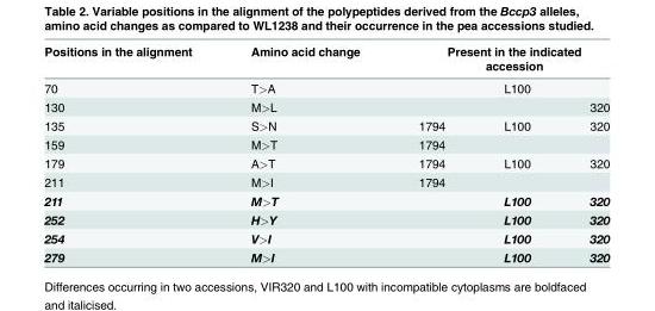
<table><thead><tr><td rowspan="2">Positions in the alignment 70</td><td rowspan="2">Amino acid change T&gt;A</td><td colspan="3">Present in the indicated accession</td></tr><tr><td></td><td>L100</td><td></td></tr></thead><tbody><tr><td>130</td><td>M&gt;L</td><td></td><td></td><td>320</td></tr><tr><td>135</td><td>S&gt;N</td><td>1794</td><td>L100</td><td>320</td></tr><tr><td>159</td><td>M&gt;T</td><td>1794</td><td></td><td></td></tr><tr><td>179</td><td>A&gt;T</td><td>1794</td><td>L100</td><td>320</td></tr><tr><td>211</td><td>M&gt;I</td><td>1794</td><td></td><td></td></tr><tr><td>211</td><td>M&gt;T</td><td></td><td>L100</td><td>320</td></tr><tr><td>252</td><td>H&gt;Y</td><td></td><td>L100</td><td>320</td></tr><tr><td>254</td><td>V&gt;I</td><td></td><td>L100</td><td>320</td></tr><tr><td>279</td><td>M&gt;I</td><td></td><td>L100</td><td>320</td></tr></tbody></table>